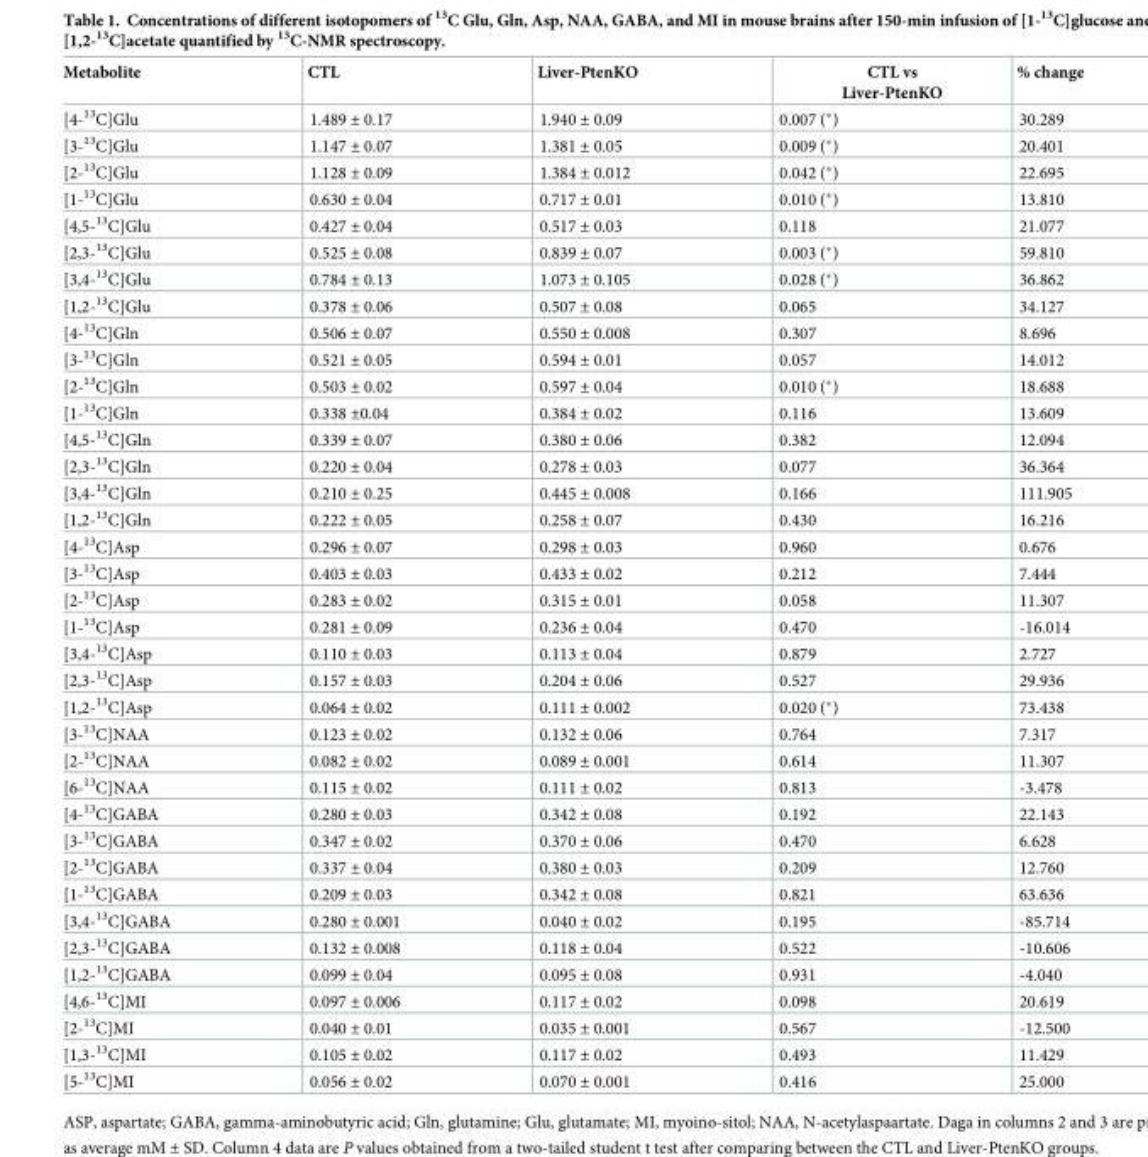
<table><thead><tr><td>Metabolite</td><td>CTL</td><td>Liver-PtenKO</td><td>CTL vs Liver-PtenKO</td><td>% change</td></tr></thead><tbody><tr><td>[4-<sup>13</sup>C]Glu</td><td>1.489 ± 0.17</td><td>1.940 ± 0.09</td><td>0.007 (*)</td><td>30.289</td></tr><tr><td>[3-<sup>13</sup>C]Glu</td><td>1.147 ± 0.07</td><td>1.381 ± 0.05</td><td>0.009 (*)</td><td>20.401</td></tr><tr><td>[2-<sup>13</sup>C]Glu</td><td>1.128 ± 0.09</td><td>1.384 ± 0.012</td><td>0.042 (*)</td><td>22.695</td></tr><tr><td>[1-<sup>13</sup>C]Glu</td><td>0.630 ± 0.04</td><td>0.717 ± 0.01</td><td>0.010 (*)</td><td>13.810</td></tr><tr><td>[4,5-<sup>13</sup>C]Glu</td><td>0.427 ± 0.04</td><td>0.517 ± 0.03</td><td>0.118</td><td>21.077</td></tr><tr><td>[2,3-<sup>13</sup>C]Glu</td><td>0.525 ± 0.08</td><td>0.839 ± 0.07</td><td>0.003 (*)</td><td>59.810</td></tr><tr><td>[3,4-<sup>13</sup>C]Glu</td><td>0.784 ± 0.13</td><td>1.073 ± 0.105</td><td>0.028 (*)</td><td>36.862</td></tr><tr><td>[1,2-<sup>13</sup>C]Glu</td><td>0.378 ± 0.06</td><td>0.507 ± 0.08</td><td>0.065</td><td>34.127</td></tr><tr><td>[4-<sup>13</sup>C]Gln</td><td>0.506 ± 0.07</td><td>0.550 ± 0.008</td><td>0.307</td><td>8.696</td></tr><tr><td>[3-<sup>13</sup>C]Gln</td><td>0.521 ± 0.05</td><td>0.594 ± 0.01</td><td>0.057</td><td>14.012</td></tr><tr><td>[2-<sup>13</sup>C]Gln</td><td>0.503 ± 0.02</td><td>0.597 ± 0.04</td><td>0.010 (*)</td><td>18.688</td></tr><tr><td>[1-<sup>13</sup>C]Gln</td><td>0.338 ±0.04</td><td>0.384 ± 0.02</td><td>0.116</td><td>13.609</td></tr><tr><td>[4,5-<sup>13</sup>C]Gln</td><td>0.339 ± 0.07</td><td>0.380 ± 0.06</td><td>0.382</td><td>12.094</td></tr><tr><td>[2,3-<sup>13</sup>C]Gln</td><td>0.220 ± 0.04</td><td>0.278 ± 0.03</td><td>0.077</td><td>36.364</td></tr><tr><td>[3,4-<sup>13</sup>C]Gln</td><td>0.210 ± 0.25</td><td>0.445 ± 0.008</td><td>0.166</td><td>111.905</td></tr><tr><td>[1,2-<sup>13</sup>C]Gln</td><td>0.222 ± 0.05</td><td>0.258 ± 0.07</td><td>0.430</td><td>16.216</td></tr><tr><td>[4-<sup>13</sup>C]Asp</td><td>0.296 ± 0.07</td><td>0.298 ± 0.03</td><td>0.960</td><td>0.676</td></tr><tr><td>[3-<sup>13</sup>C]Asp</td><td>0.403 ± 0.03</td><td>0.433 ± 0.02</td><td>0.212</td><td>7.444</td></tr><tr><td>[2-<sup>13</sup>C]Asp</td><td>0.283 ± 0.02</td><td>0.315 ± 0.01</td><td>0.058</td><td>11.307</td></tr><tr><td>[1-<sup>13</sup>C]Asp</td><td>0.281 ± 0.09</td><td>0.236 ± 0.04</td><td>0.470</td><td>-16.014</td></tr><tr><td>[3,4-<sup>13</sup>C]Asp</td><td>0.110 ± 0.03</td><td>0.113 ± 0.04</td><td>0.879</td><td>2.727</td></tr><tr><td>[2,3-<sup>13</sup>C]Asp</td><td>0.157 ± 0.03</td><td>0.204 ± 0.06</td><td>0.527</td><td>29.936</td></tr><tr><td>[1,2-<sup>13</sup>C]Asp</td><td>0.064 ± 0.02</td><td>0.111 ± 0.002</td><td>0.020 (*)</td><td>73.438</td></tr><tr><td>[3-<sup>13</sup>C]NAA</td><td>0.123 ± 0.02</td><td>0.132 ± 0.06</td><td>0.764</td><td>7.317</td></tr><tr><td>[2-<sup>13</sup>C]NAA</td><td>0.082 ± 0.02</td><td>0.089 ± 0.001</td><td>0.614</td><td>11.307</td></tr><tr><td>[6-<sup>13</sup>C]NAA</td><td>0.115 ± 0.02</td><td>0.111 ± 0.02</td><td>0.813</td><td>-3.478</td></tr><tr><td>[4-<sup>13</sup>C]GABA</td><td>0.280 ± 0.03</td><td>0.342 ± 0.08</td><td>0.192</td><td>22.143</td></tr><tr><td>[3-<sup>13</sup>C]GABA</td><td>0.347 ± 0.02</td><td>0.370 ± 0.06</td><td>0.470</td><td>6.628</td></tr><tr><td>[2-<sup>13</sup>C]GABA</td><td>0.337 ± 0.04</td><td>0.380 ± 0.03</td><td>0.209</td><td>12.760</td></tr><tr><td>[1-<sup>13</sup>C]GABA</td><td>0.209 ± 0.03</td><td>0.342 ± 0.08</td><td>0.821</td><td>63.636</td></tr><tr><td>[3,4-<sup>13</sup>C]GABA</td><td>0.280 ± 0.001</td><td>0.040 ± 0.02</td><td>0.195</td><td>-85.714</td></tr><tr><td>[2,3-<sup>13</sup>C]GABA</td><td>0.132 ± 0.008</td><td>0.118 ± 0.04</td><td>0.522</td><td>-10.606</td></tr><tr><td>[1,2-<sup>13</sup>C]GABA</td><td>0.099 ± 0.04</td><td>0.095 ± 0.08</td><td>0.931</td><td>-4.040</td></tr><tr><td>[4,6-<sup>13</sup>C]MI</td><td>0.097 ± 0.006</td><td>0.117 ± 0.02</td><td>0.098</td><td>20.619</td></tr><tr><td>[2-<sup>13</sup>C]MI</td><td>0.040 ± 0.01</td><td>0.035 ± 0.001</td><td>0.567</td><td>-12.500</td></tr><tr><td>[1,3-<sup>13</sup>C]MI</td><td>0.105 ± 0.02</td><td>0.117 ± 0.02</td><td>0.493</td><td>11.429</td></tr><tr><td>[5-<sup>13</sup>C]MI</td><td>0.056 ± 0.02</td><td>0.070 ± 0.001</td><td>0.416</td><td>25.000</td></tr></tbody></table>